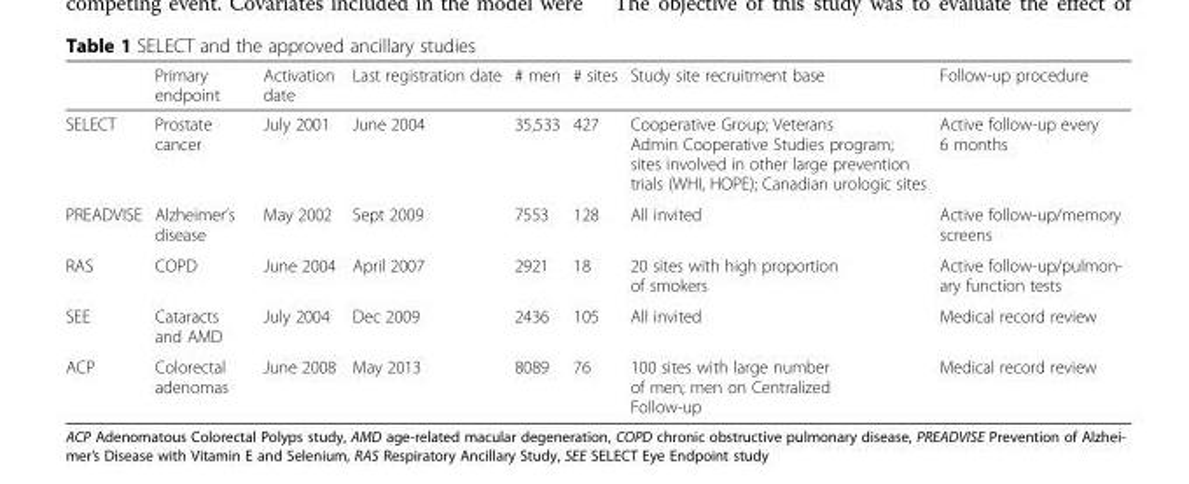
<table><thead><tr><td></td><td>Primary endpoint</td><td>Activation date</td><td>Last registration date</td><td># men</td><td># sites</td><td>Study site recruitment base</td><td>Follow-up procedure</td></tr></thead><tbody><tr><td>SELECT</td><td>Prostate cancer</td><td>July 2001</td><td>June 2004</td><td>35,533</td><td>427</td><td>Cooperative Group; Veterans Admin Cooperative Studies program; sites involved in other large prevention trials (WHI, HOPE); Canadian urologic sites</td><td>Active follow-up every 6 months</td></tr><tr><td>PREADVISE</td><td>Alzheimer’s disease</td><td>May 2002</td><td>Sept 2009</td><td>7553</td><td>128</td><td>All invited</td><td>Active follow-up/memory screens</td></tr><tr><td>RAS</td><td>COPD</td><td>June 2004</td><td>April 2007</td><td>2921</td><td>18</td><td>20 sites with high proportion of smokers</td><td>Active follow-up/pulmon- ary function tests</td></tr><tr><td>SEE</td><td>Cataracts and AMD</td><td>July 2004</td><td>Dec 2009</td><td>2436</td><td>105</td><td>All invited</td><td>Medical record review</td></tr><tr><td>ACP</td><td>Colorectal adenomas</td><td>June 2008</td><td>May 2013</td><td>8089</td><td>76</td><td>100 sites with large number of men; men on Centralized Follow-up</td><td>Medical record review</td></tr></tbody></table>